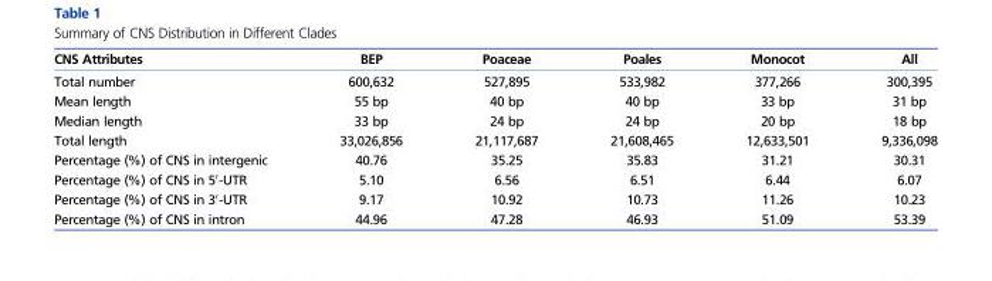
<table><thead><tr><td>CNS Attributes</td><td>BEP</td><td>Poaceae</td><td>Poales</td><td>Monocot</td><td>All</td></tr></thead><tbody><tr><td>Total number</td><td>600,632</td><td>527,895</td><td>533,982</td><td>377,266</td><td>300,395</td></tr><tr><td>Mean length</td><td>55 bp</td><td>40 bp</td><td>40 bp</td><td>33 bp</td><td>31 bp</td></tr><tr><td>Median length</td><td>33 bp</td><td>24 bp</td><td>24 bp</td><td>20 bp</td><td>18 bp</td></tr><tr><td>Total length</td><td>33,026,856</td><td>21,117,687</td><td>21,608,465</td><td>12,633,501</td><td>9,336,098</td></tr><tr><td>Percentage (%) of CNS in intergenic</td><td>40.76</td><td>35.25</td><td>35.83</td><td>31.21</td><td>30.31</td></tr><tr><td>Percentage (%) of CNS in 5′-UTR</td><td>5.10</td><td>6.56</td><td>6.51</td><td>6.44</td><td>6.07</td></tr><tr><td>Percentage (%) of CNS in 3′-UTR</td><td>9.17</td><td>10.92</td><td>10.73</td><td>11.26</td><td>10.23</td></tr><tr><td>Percentage (%) of CNS in intron</td><td>44.96</td><td>47.28</td><td>46.93</td><td>51.09</td><td>53.39</td></tr></tbody></table>